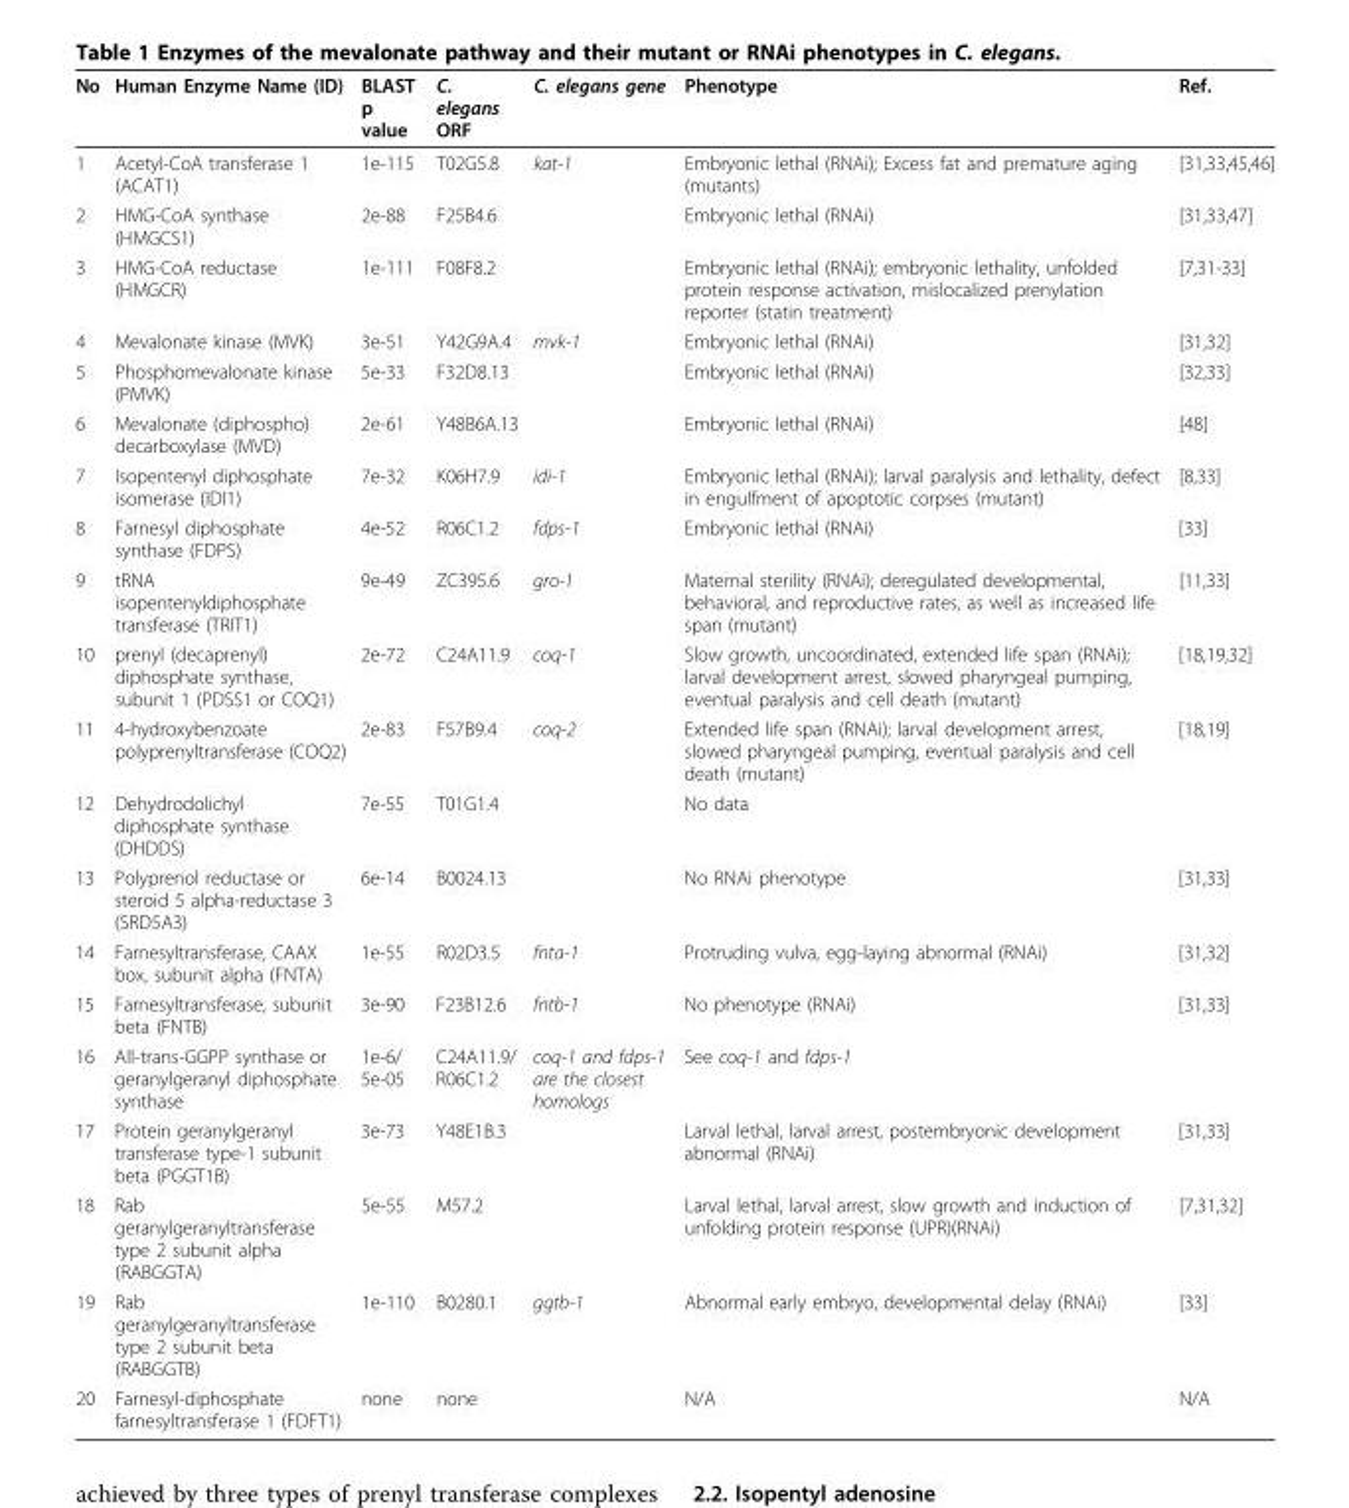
<table><thead><tr><td>No</td><td>Human Enzyme Name (ID)</td><td>BLAST p value</td><td>C. elegans ORF</td><td>C. elegans gene</td><td>Phenotype</td><td>Ref.</td></tr></thead><tbody><tr><td>1</td><td>Acetyl-CoA transferase 1 (ACAT1)</td><td>1e-115</td><td>T02G5.8</td><td>kat-1</td><td>Embryonic lethal (RNAi); Excess fat and premature aging (mutants)</td><td>[31,33,45,46]</td></tr><tr><td>2</td><td>HMG-CoA synthase (HMGCS1)</td><td>2e-88</td><td>F25B4.6</td><td></td><td>Embryonic lethal (RNAi)</td><td>[31,33,47]</td></tr><tr><td>3</td><td>HMG-CoA reductase (HMGCR)</td><td>1e-111</td><td>F08F8.2</td><td></td><td>Embryonic lethal (RNAi); embryonic lethality, unfolded protein response activation, mislocalized prenylation reporter (statin treatment)</td><td>[7,31-33]</td></tr><tr><td>4</td><td>Mevalonate kinase (MVK)</td><td>3e-51</td><td>Y42G9A.4</td><td>mvk-1</td><td>Embryonic lethal (RNAi)</td><td>[31,32]</td></tr><tr><td>5</td><td>Phosphomevalonate kinase (PMVK)</td><td>5e-33</td><td>F32D8.13</td><td></td><td>Embryonic lethal (RNAi)</td><td>[32,33]</td></tr><tr><td>6</td><td>Mevalonate (diphospho) decarboxylase (MVD)</td><td>2e-61</td><td>Y48B6A.13</td><td></td><td>Embryonic lethal (RNAi)</td><td>[48]</td></tr><tr><td>7</td><td>Isopentenyl diphosphate isomerase (IDI1)</td><td>7e-32</td><td>K06H7.9</td><td>idi-1</td><td>Embryonic lethal (RNAi); larval paralysis and lethality, defect in engulfment of apoptotic corpses (mutant)</td><td>[8,33]</td></tr><tr><td>8</td><td>Farnesyl diphosphate synthase (FDPS)</td><td>4e-52</td><td>R06C1.2</td><td>fdps-1</td><td>Embryonic lethal (RNAi)</td><td>[33]</td></tr><tr><td>9</td><td>tRNA isopentenyldiphosphate transferase (TRIT1)</td><td>9e-49</td><td>ZC395.6</td><td>gro-1</td><td>Maternal sterility (RNAi); deregulated developmental, behavioral, and reproductive rates, as well as increased life span (mutant)</td><td>[11,33]</td></tr><tr><td>10</td><td>prenyl (decaprenyl) diphosphate synthase, subunit 1 (PDSS1 or COQ1)</td><td>2e-72</td><td>C24A11.9</td><td>coq-1</td><td>Slow growth, uncoordinated, extended life span (RNAi); larval development arrest, slowed pharyngeal pumping, eventual paralysis and cell death (mutant)</td><td>[18,19,32]</td></tr><tr><td>11</td><td>4-hydroxybenzoate polyprenyltransferase (COQ2)</td><td>2e-83</td><td>F57B9.4</td><td>coq-2</td><td>Extended life span (RNAi); larval development arrest, slowed pharyngeal pumping, eventual paralysis and cell death (mutant)</td><td>[18,19]</td></tr><tr><td>12</td><td>Dehydrodolichyl diphosphate synthase (DHDDS)</td><td>7e-55</td><td>T01G1.4</td><td></td><td>No data</td><td></td></tr><tr><td>13</td><td>Polyprenol reductase or steroid 5 alpha-reductase 3 (SRD5A3)</td><td>6e-14</td><td>B0024.13</td><td></td><td>No RNAi phenotype</td><td>[31,33]</td></tr><tr><td>14</td><td>Farnesyltransferase, CAAX box, subunit alpha (FNTA)</td><td>1e-55</td><td>R02D3.5</td><td>fnta-1</td><td>Protruding vulva, egg-laying abnormal (RNAi)</td><td>[31,32]</td></tr><tr><td>15</td><td>Farnesyltransferase, subunit beta (FNTB)</td><td>3e-90</td><td>F23B12.6</td><td>fntb-1</td><td>No phenotype (RNAi)</td><td>[31,33]</td></tr><tr><td>16</td><td>All-trans-GGPP synthase or geranylgeranyl diphosphate synthase</td><td>1e-6/ 5e-05</td><td>C24A11.9/ R06C1.2</td><td>coq-1 and fdps-1 are the closest homologs</td><td>See coq-1 and fdps-1</td><td></td></tr><tr><td>17</td><td>Protein geranylgeranyl transferase type-1 subunit beta (PGGT1B)</td><td>3e-73</td><td>Y48E1B.3</td><td></td><td>Larval lethal, larval arrest, postembryonic development abnormal (RNAi)</td><td>[31,33]</td></tr><tr><td>18</td><td>Rab geranylgeranyltransferase type 2 subunit alpha (RABGGTA)</td><td>5e-55</td><td>M57.2</td><td></td><td>Larval lethal, larval arrest, slow growth and induction of unfolding protein response (UPR)(RNAi)</td><td>[7,31,32]</td></tr><tr><td>19</td><td>Rab geranylgeranyltransferase type 2 subunit beta (RABGGTB)</td><td>1e-110</td><td>B0280.1</td><td>ggtb-1</td><td>Abnormal early embryo, developmental delay (RNAi)</td><td>[33]</td></tr><tr><td>20</td><td>Farnesyl-diphosphate farnesyltransferase 1 (FDFT1)</td><td>none</td><td>none</td><td></td><td>N/A</td><td>N/A</td></tr></tbody></table>